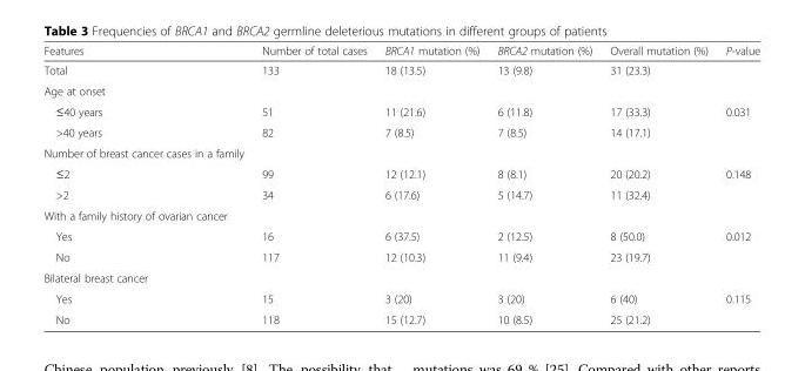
<table><thead><tr><td>Features</td><td>Number of total cases</td><td>BRCA1 mutation (%)</td><td>BRCA2 mutation (%)</td><td>Overall mutation (%)</td><td>P-value</td></tr></thead><tbody><tr><td>Total</td><td>133</td><td>18 (13.5)</td><td>13 (9.8)</td><td>31 (23.3)</td><td></td></tr><tr><td colspan="6">Age at onset</td></tr><tr><td>≤40 years</td><td>51</td><td>11 (21.6)</td><td>6 (11.8)</td><td>17 (33.3)</td><td rowspan="2">0.031</td></tr><tr><td>&gt;40 years</td><td>82</td><td>7 (8.5)</td><td>7 (8.5)</td><td>14 (17.1)</td></tr><tr><td colspan="6">Number of breast cancer cases in a family</td></tr><tr><td>≤2</td><td>99</td><td>12 (12.1)</td><td>8 (8.1)</td><td>20 (20.2)</td><td rowspan="2">0.148</td></tr><tr><td>&gt;2</td><td>34</td><td>6 (17.6)</td><td>5 (14.7)</td><td>11 (32.4)</td></tr><tr><td colspan="6">With a family history of ovarian cancer</td></tr><tr><td>Yes</td><td>16</td><td>6 (37.5)</td><td>2 (12.5)</td><td>8 (50.0)</td><td rowspan="2">0.012</td></tr><tr><td>No</td><td>117</td><td>12 (10.3)</td><td>11 (9.4)</td><td>23 (19.7)</td></tr><tr><td colspan="6">Bilateral breast cancer</td></tr><tr><td>Yes</td><td>15</td><td>3 (20)</td><td>3 (20)</td><td>6 (40)</td><td rowspan="2">0.115</td></tr><tr><td>No</td><td>118</td><td>15 (12.7)</td><td>10 (8.5)</td><td>25 (21.2)</td></tr></tbody></table>